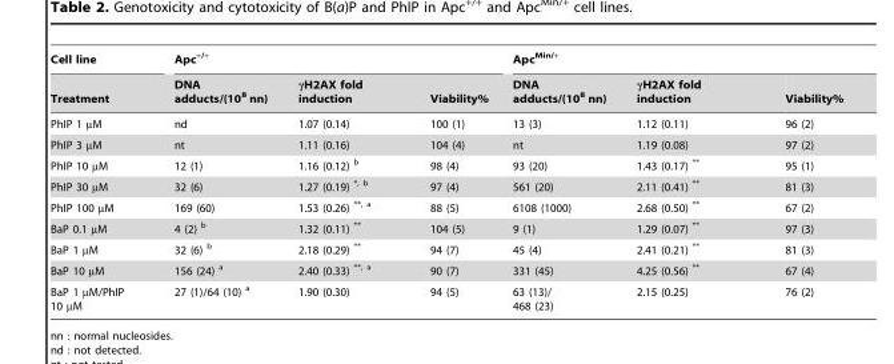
<table><thead><tr><td rowspan="2">Cell line Treatment</td><td colspan="3">Apc<sup>+/+</sup></td><td colspan="3">Apc<sup>Min/+</sup></td></tr><tr><td>DNA adducts/(10<sup>8</sup> nn)</td><td>γH2AX fold induction</td><td>Viability%</td><td>DNA adducts/(10<sup>8</sup> nn)</td><td>γH2AX fold induction</td><td>Viability%</td></tr></thead><tbody><tr><td>PhIP 1 µM</td><td>nd</td><td>1.07 (0.14)</td><td>100 (1)</td><td>13 (3)</td><td>1.12 (0.11)</td><td>96 (2)</td></tr><tr><td>PhIP 3 µM</td><td>nt</td><td>1.11 (0.16)</td><td>104 (4)</td><td>nt</td><td>1.19 (0.08)</td><td>97 (2)</td></tr><tr><td>PhIP 10 µM</td><td>12 (1)</td><td>1.16 (0.12) <sup>b</sup></td><td>98 (4)</td><td>93 (20)</td><td>1.43 (0.17) **</td><td>95 (1)</td></tr><tr><td>PhIP 30 µM</td><td>32 (6)</td><td>1.27 (0.19) *, b</td><td>97 (4)</td><td>561 (20)</td><td>2.11 (0.41) **</td><td>81 (3)</td></tr><tr><td>PhIP 100 µM</td><td>169 (60)</td><td>1.53 (0.26) <sup>**, a</sup></td><td>88 (5)</td><td>6108 (1000)</td><td>2.68 (0.50) **</td><td>67 (2)</td></tr><tr><td>BaP 0.1 µM</td><td>4 (2) <sup>b</sup></td><td>1.32 (0.11) **</td><td>104 (5)</td><td>9 (1)</td><td>1.29 (0.07) **</td><td>97 (3)</td></tr><tr><td>BaP 1 µM</td><td>32 (6) <sup>b</sup></td><td>2.18 (0.29) **</td><td>94 (7)</td><td>45 (4)</td><td>2.41 (0.21) **</td><td>81 (3)</td></tr><tr><td>BaP 10 µM</td><td>156 (24) <sup>a</sup></td><td>2.40 (0.33) <sup>**, a</sup></td><td>90 (7)</td><td>331 (45)</td><td>4.25 (0.56) **</td><td>67 (4)</td></tr><tr><td>BaP 1 µM/PhIP 10 µM</td><td>27 (1)/64 (10) <sup>a</sup></td><td>1.90 (0.30)</td><td>94 (5)</td><td>63 (13)/ 468 (23)</td><td>2.15 (0.25)</td><td>76 (2)</td></tr></tbody></table>